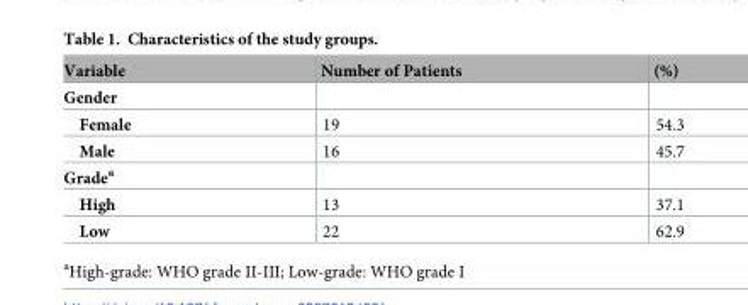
<table><thead><tr><td>Variable</td><td>Number of Patients</td><td>(%)</td></tr></thead><tbody><tr><td colspan="3">Gender</td></tr><tr><td>Female</td><td>19</td><td>54.3</td></tr><tr><td>Male</td><td>16</td><td>45.7</td></tr><tr><td colspan="3">Grade<sup>a</sup></td></tr><tr><td>High</td><td>13</td><td>37.1</td></tr><tr><td>Low</td><td>22</td><td>62.9</td></tr></tbody></table>